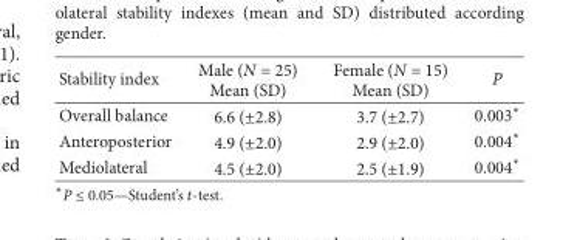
<table><thead><tr><td>Stability index</td><td>Male (N = 25) Mean (SD)</td><td>Female (N = 15) Mean (SD)</td><td>P</td></tr></thead><tbody><tr><td>Overall balance</td><td>6.6 (±2.8)</td><td>3.7 (±2.7)</td><td>0.003∗</td></tr><tr><td>Anteroposterior</td><td>4.9 (±2.0)</td><td>2.9 (±2.0)</td><td>0.004∗</td></tr><tr><td>Mediolateral</td><td>4.5 (±2.0)</td><td>2.5 (±1.9)</td><td>0.004∗</td></tr></tbody></table>